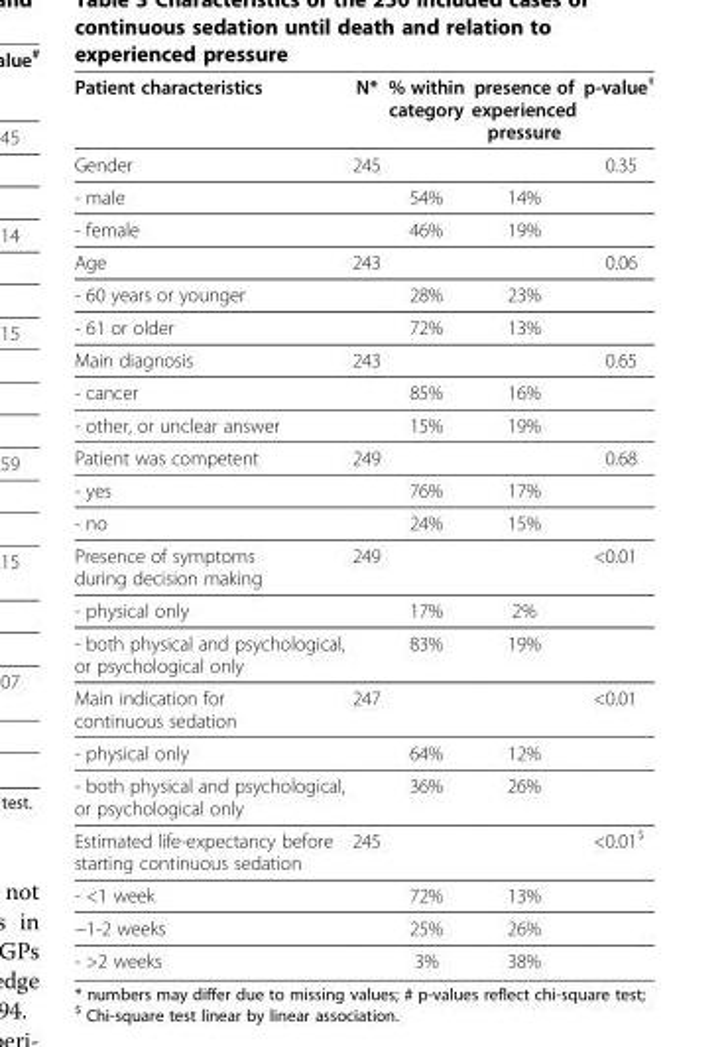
<table><thead><tr><td>Patient characteristics</td><td>N*</td><td>% within category</td><td>presence of experienced pressure</td><td>p-value<sup>#</sup></td></tr></thead><tbody><tr><td>Gender</td><td>245</td><td></td><td></td><td>0.35</td></tr><tr><td>- male</td><td></td><td>54%</td><td>14%</td><td></td></tr><tr><td>- female</td><td></td><td>46%</td><td>19%</td><td></td></tr><tr><td>Age</td><td>243</td><td></td><td></td><td>0.06</td></tr><tr><td>- 60 years or younger</td><td></td><td>28%</td><td>23%</td><td></td></tr><tr><td>- 61 or older</td><td></td><td>72%</td><td>13%</td><td></td></tr><tr><td>Main diagnosis</td><td>243</td><td></td><td></td><td>0.65</td></tr><tr><td>- cancer</td><td></td><td>85%</td><td>16%</td><td></td></tr><tr><td>- other, or unclear answer</td><td></td><td>15%</td><td>19%</td><td></td></tr><tr><td>Patient was competent</td><td>249</td><td></td><td></td><td>0.68</td></tr><tr><td>- yes</td><td></td><td>76%</td><td>17%</td><td></td></tr><tr><td>- no</td><td></td><td>24%</td><td>15%</td><td></td></tr><tr><td>Presence of symptoms during decision making</td><td>249</td><td></td><td></td><td>&lt;0.01</td></tr><tr><td>- physical only</td><td></td><td>17%</td><td>2%</td><td></td></tr><tr><td>- both physical and psychological, or psychological only</td><td></td><td>83%</td><td>19%</td><td></td></tr><tr><td>Main indication for continuous sedation</td><td>247</td><td></td><td></td><td>&lt;0.01</td></tr><tr><td>- physical only</td><td></td><td>64%</td><td>12%</td><td></td></tr><tr><td>- both physical and psychological, or psychological only</td><td></td><td>36%</td><td>26%</td><td></td></tr><tr><td>Estimated life-expectancy before starting continuous sedation</td><td>245</td><td></td><td></td><td>&lt;0.01<sup>$</sup></td></tr><tr><td>- &lt;1 week</td><td></td><td>72%</td><td>13%</td><td></td></tr><tr><td>−1-2 weeks</td><td></td><td>25%</td><td>26%</td><td></td></tr><tr><td>- &gt;2 weeks</td><td></td><td>3%</td><td>38%</td><td></td></tr></tbody></table>